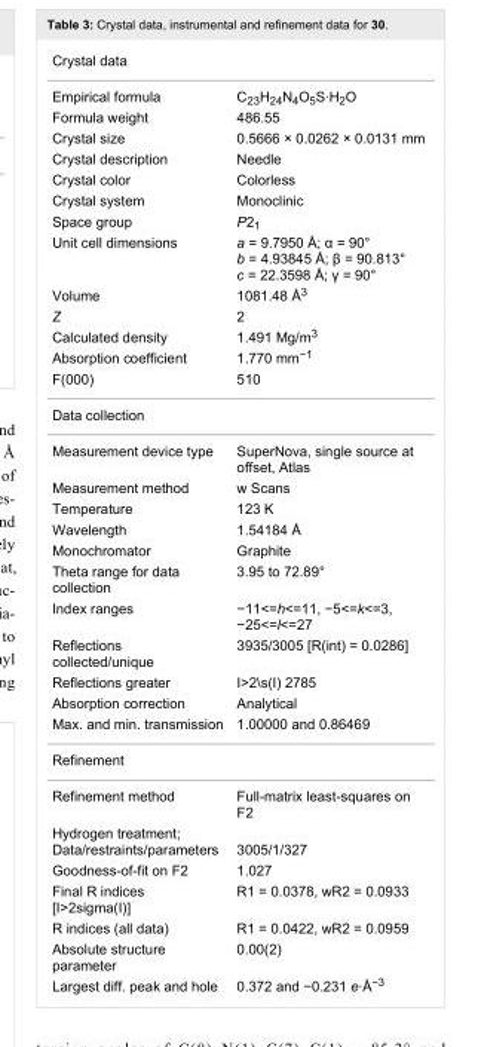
<table><tbody><tr><td colspan="2">Crystal data</td></tr><tr><td>Empirical formula</td><td>C<sub>23</sub>H<sub>24</sub>N<sub>4</sub>O<sub>5</sub>S·H<sub>2</sub>O</td></tr><tr><td>Formula weight</td><td>486.55</td></tr><tr><td>Crystal size</td><td>0.5666 × 0.0262 × 0.0131 mm</td></tr><tr><td>Crystal description</td><td>Needle</td></tr><tr><td>Crystal color</td><td>Colorless</td></tr><tr><td>Crystal system</td><td>Monoclinic</td></tr><tr><td>Space group</td><td>P2<sub>1</sub></td></tr><tr><td>Unit cell dimensions</td><td>a = 9.7950 Å; α = 90° b = 4.93845 Å; β = 90.813° c = 22.3598 Å; γ = 90°</td></tr><tr><td>Volume</td><td>1081.48 Å<sup>3</sup></td></tr><tr><td>Z</td><td>2</td></tr><tr><td>Calculated density</td><td>1.491 Mg/m<sup>3</sup></td></tr><tr><td>Absorption coefficient</td><td>1.770 mm<sup>−1</sup></td></tr><tr><td>F(000)</td><td>510</td></tr><tr><td colspan="2">Data collection</td></tr><tr><td>Measurement device type</td><td>SuperNova, single source at offset, Atlas</td></tr><tr><td>Measurement method</td><td>w Scans</td></tr><tr><td>Temperature</td><td>123 K</td></tr><tr><td>Wavelength</td><td>1.54184 Å</td></tr><tr><td>Monochromator</td><td>Graphite</td></tr><tr><td>Theta range for data collection</td><td>3.95 to 72.89°</td></tr><tr><td>Index ranges</td><td>−11&lt;=h&lt;=11, −5&lt;=k&lt;=3, −25&lt;=l&lt;=27</td></tr><tr><td>Reflections collected/unique</td><td>3935/3005 [R(int) = 0.0286]</td></tr><tr><td>Reflections greater</td><td>I&gt;2\s(I) 2785</td></tr><tr><td>Absorption correction</td><td>Analytical</td></tr><tr><td>Max. and min. transmission</td><td>1.00000 and 0.86469</td></tr><tr><td colspan="2">Refinement</td></tr><tr><td>Refinement method</td><td>Full-matrix least-squares on F2</td></tr><tr><td>Hydrogen treatment; Data/restraints/parameters</td><td>3005/1/327</td></tr><tr><td>Goodness-of-fit on F2</td><td>1.027</td></tr><tr><td>Final R indices [I&gt;2sigma(I)]</td><td>R1 = 0.0378, wR2 = 0.0933</td></tr><tr><td>R indices (all data)</td><td>R1 = 0.0422, wR2 = 0.0959</td></tr><tr><td>Absolute structure parameter</td><td>0.00(2)</td></tr><tr><td>Largest diff. peak and hole</td><td>0.372 and −0.231 e·Å<sup>−3</sup></td></tr></tbody></table>